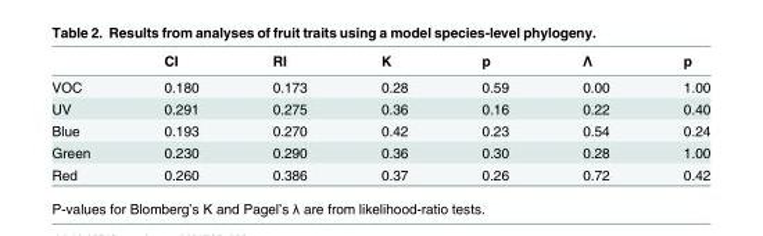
<table><thead><tr><td></td><td>CI</td><td>RI</td><td>K</td><td>p</td><td>Λ</td><td>p</td></tr></thead><tbody><tr><td>VOC</td><td>0.180</td><td>0.173</td><td>0.28</td><td>0.59</td><td>0.00</td><td>1.00</td></tr><tr><td>UV</td><td>0.291</td><td>0.275</td><td>0.36</td><td>0.16</td><td>0.22</td><td>0.40</td></tr><tr><td>Blue</td><td>0.193</td><td>0.270</td><td>0.42</td><td>0.23</td><td>0.54</td><td>0.24</td></tr><tr><td>Green</td><td>0.230</td><td>0.290</td><td>0.36</td><td>0.30</td><td>0.28</td><td>1.00</td></tr><tr><td>Red</td><td>0.260</td><td>0.386</td><td>0.37</td><td>0.26</td><td>0.72</td><td>0.42</td></tr></tbody></table>